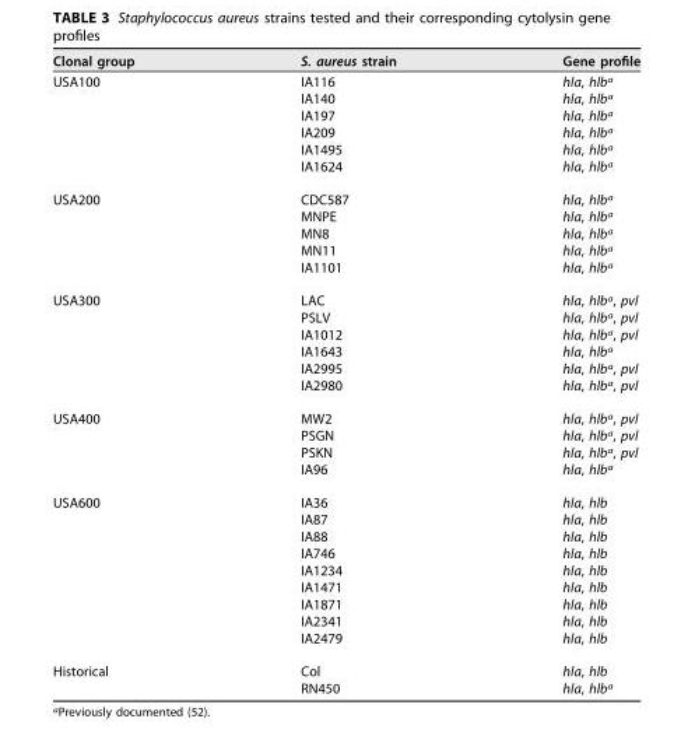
<table><thead><tr><td>Clonal group</td><td>S. aureus strain</td><td>Gene profile</td></tr></thead><tbody><tr><td rowspan="6">USA100</td><td>IA116</td><td>hla, hlb<sup>a</sup></td></tr><tr><td>IA140</td><td>hla, hlb<sup>a</sup></td></tr><tr><td>IA197</td><td>hla, hlb<sup>a</sup></td></tr><tr><td>IA209</td><td>hla, hlb<sup>a</sup></td></tr><tr><td>IA1495</td><td>hla, hlb<sup>a</sup></td></tr><tr><td>IA1624</td><td>hla, hlb<sup>a</sup></td></tr><tr><td rowspan="5">USA200</td><td>CDC587</td><td>hla, hlb<sup>a</sup></td></tr><tr><td>MNPE</td><td>hla, hlb<sup>a</sup></td></tr><tr><td>MN8</td><td>hla, hlb<sup>a</sup></td></tr><tr><td>MN11</td><td>hla, hlb<sup>a</sup></td></tr><tr><td>IA1101</td><td>hla, hlb<sup>a</sup></td></tr><tr><td rowspan="6">USA300</td><td>LAC</td><td>hla, hlb<sup>a</sup>, pvl</td></tr><tr><td>PSLV</td><td>hla, hlb<sup>a</sup>, pvl</td></tr><tr><td>IA1012</td><td>hla, hlb<sup>a</sup>, pvl</td></tr><tr><td>IA1643</td><td>hla, hlb<sup>a</sup></td></tr><tr><td>IA2995</td><td>hla, hlb<sup>a</sup>, pvl</td></tr><tr><td>IA2980</td><td>hla, hlb<sup>a</sup>, pvl</td></tr><tr><td rowspan="4">USA400</td><td>MW2</td><td>hla, hlb<sup>a</sup>, pvl</td></tr><tr><td>PSGN</td><td>hla, hlb<sup>a</sup>, pvl</td></tr><tr><td>PSKN</td><td>hla, hlb<sup>a</sup>, pvl</td></tr><tr><td>IA96</td><td>hla, hlb<sup>a</sup></td></tr><tr><td rowspan="9">USA600</td><td>IA36</td><td>hla, hlb</td></tr><tr><td>IA87</td><td>hla, hlb</td></tr><tr><td>IA88</td><td>hla, hlb</td></tr><tr><td>IA746</td><td>hla, hlb</td></tr><tr><td>IA1234</td><td>hla, hlb</td></tr><tr><td>IA1471</td><td>hla, hlb</td></tr><tr><td>IA1871</td><td>hla, hlb</td></tr><tr><td>IA2341</td><td>hla, hlb</td></tr><tr><td>IA2479</td><td>hla, hlb</td></tr><tr><td rowspan="2">Historical</td><td>Col</td><td>hla, hlb</td></tr><tr><td>RN450</td><td>hla, hlb<sup>a</sup></td></tr></tbody></table>